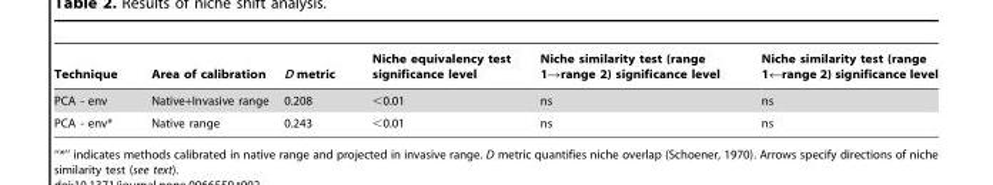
<table><thead><tr><td>Technique</td><td>Area of calibration</td><td>D metric</td><td>Niche equivalency test significance level</td><td>Niche similarity test (range 1→range 2) significance level</td><td>Niche similarity test (range 1←range 2) significance level</td></tr></thead><tbody><tr><td>PCA - env</td><td>Native+Invasive range</td><td>0.208</td><td>&lt;0.01</td><td>ns</td><td>ns</td></tr><tr><td>PCA - env*</td><td>Native range</td><td>0.243</td><td>&lt;0.01</td><td>ns</td><td>ns</td></tr></tbody></table>